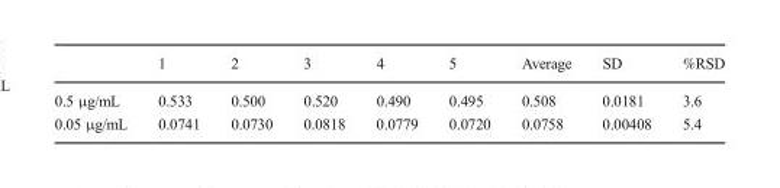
<table><thead><tr><td></td><td>1</td><td>2</td><td>3</td><td>4</td><td>5</td><td>Average</td><td>SD</td><td>%RSD</td></tr></thead><tbody><tr><td>0.5 μg/mL</td><td>0.533</td><td>0.500</td><td>0.520</td><td>0.490</td><td>0.495</td><td>0.508</td><td>0.0181</td><td>3.6</td></tr><tr><td>0.05 μg/mL</td><td>0.0741</td><td>0.0730</td><td>0.0818</td><td>0.0779</td><td>0.0720</td><td>0.0758</td><td>0.00408</td><td>5.4</td></tr></tbody></table>